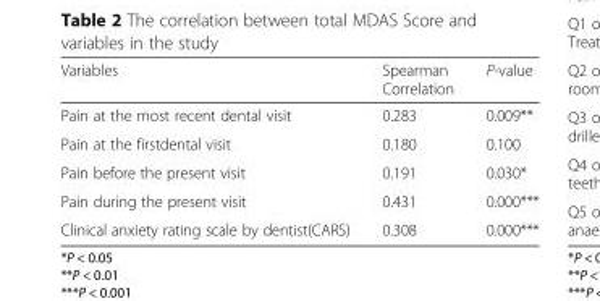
<table><thead><tr><td>Variables</td><td>Spearman Correlation</td><td>P-value</td></tr></thead><tbody><tr><td>Pain at the most recent dental visit</td><td>0.283</td><td>0.009**</td></tr><tr><td>Pain at the firstdental visit</td><td>0.180</td><td>0.100</td></tr><tr><td>Pain before the present visit</td><td>0.191</td><td>0.030*</td></tr><tr><td>Pain during the present visit</td><td>0.431</td><td>0.000***</td></tr><tr><td>Clinical anxiety rating scale by dentist(CARS)</td><td>0.308</td><td>0.000***</td></tr></tbody></table>